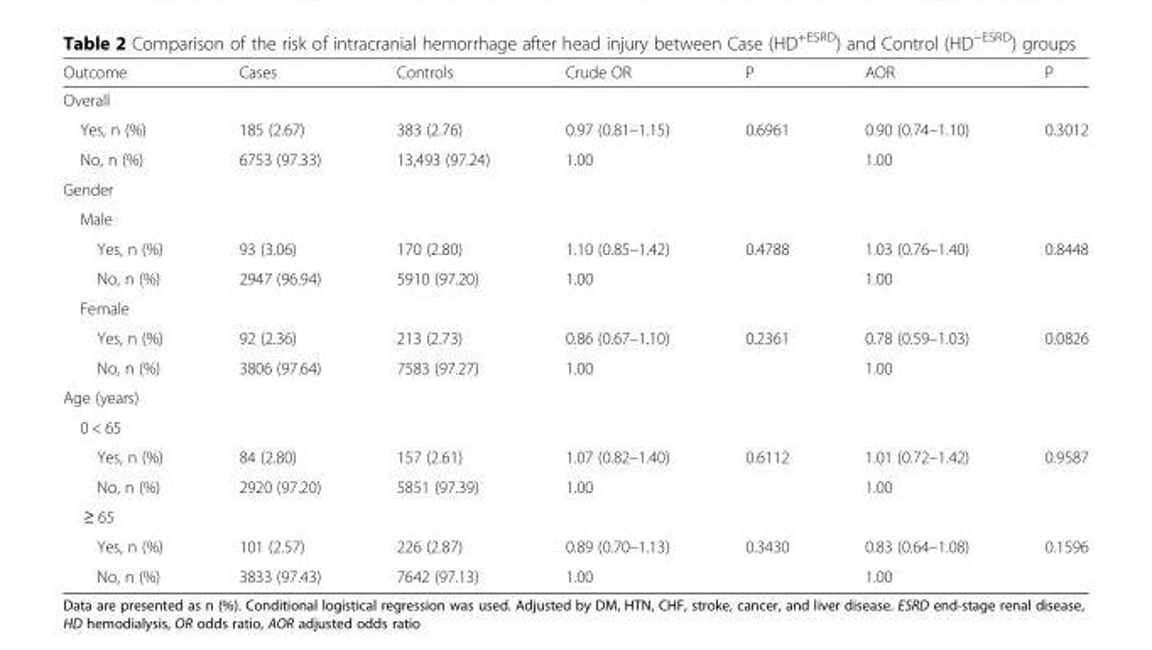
<table><thead><tr><td>Outcome</td><td>Cases</td><td>Controls</td><td>Crude OR</td><td>P</td><td>AOR</td><td>P</td></tr></thead><tbody><tr><td colspan="7">Overall</td></tr><tr><td>Yes, n (%)</td><td>185 (2.67)</td><td>383 (2.76)</td><td>0.97 (0.81–1.15)</td><td>0.6961</td><td>0.90 (0.74–1.10)</td><td>0.3012</td></tr><tr><td>No, n (%)</td><td>6753 (97.33)</td><td>13,493 (97.24)</td><td>1.00</td><td></td><td>1.00</td><td></td></tr><tr><td colspan="7">Gender</td></tr><tr><td colspan="7">Male</td></tr><tr><td>Yes, n (%)</td><td>93 (3.06)</td><td>170 (2.80)</td><td>1.10 (0.85–1.42)</td><td>0.4788</td><td>1.03 (0.76–1.40)</td><td>0.8448</td></tr><tr><td>No, n (%)</td><td>2947 (96.94)</td><td>5910 (97.20)</td><td>1.00</td><td></td><td>1.00</td><td></td></tr><tr><td colspan="7">Female</td></tr><tr><td>Yes, n (%)</td><td>92 (2.36)</td><td>213 (2.73)</td><td>0.86 (0.67–1.10)</td><td>0.2361</td><td>0.78 (0.59–1.03)</td><td>0.0826</td></tr><tr><td>No, n (%)</td><td>3806 (97.64)</td><td>7583 (97.27)</td><td>1.00</td><td></td><td>1.00</td><td></td></tr><tr><td colspan="7">Age (years)</td></tr><tr><td colspan="7">0 &lt; 65</td></tr><tr><td>Yes, n (%)</td><td>84 (2.80)</td><td>157 (2.61)</td><td>1.07 (0.82–1.40)</td><td>0.6112</td><td>1.01 (0.72–1.42)</td><td>0.9587</td></tr><tr><td>No, n (%)</td><td>2920 (97.20)</td><td>5851 (97.39)</td><td>1.00</td><td></td><td>1.00</td><td></td></tr><tr><td colspan="7">≥ 65</td></tr><tr><td>Yes, n (%)</td><td>101 (2.57)</td><td>226 (2.87)</td><td>0.89 (0.70–1.13)</td><td>0.3430</td><td>0.83 (0.64–1.08)</td><td>0.1596</td></tr><tr><td>No, n (%)</td><td>3833 (97.43)</td><td>7642 (97.13)</td><td>1.00</td><td></td><td>1.00</td><td></td></tr></tbody></table>